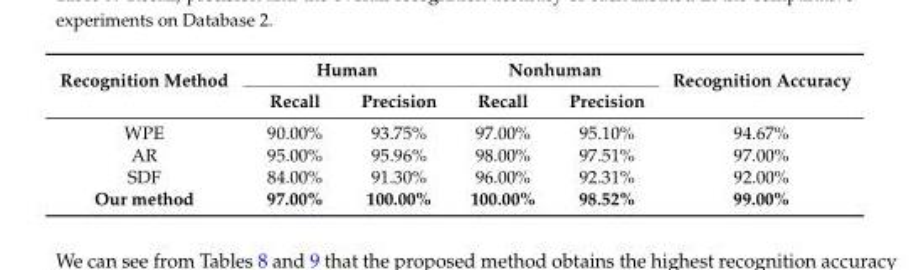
<table><thead><tr><td rowspan="2">Recognition Method</td><td colspan="2">Human</td><td colspan="2">Nonhuman</td><td rowspan="2">Recognition Accuracy</td></tr><tr><td>Recall</td><td>Precision</td><td>Recall</td><td>Precision</td></tr></thead><tbody><tr><td>WPE</td><td>90.00%</td><td>93.75%</td><td>97.00%</td><td>95.10%</td><td>94.67%</td></tr><tr><td>AR</td><td>95.00%</td><td>95.96%</td><td>98.00%</td><td>97.51%</td><td>97.00%</td></tr><tr><td>SDF</td><td>84.00%</td><td>91.30%</td><td>96.00%</td><td>92.31%</td><td>92.00%</td></tr><tr><td>Our method</td><td>97.00%</td><td>100.00%</td><td>100.00%</td><td>98.52%</td><td>99.00%</td></tr></tbody></table>